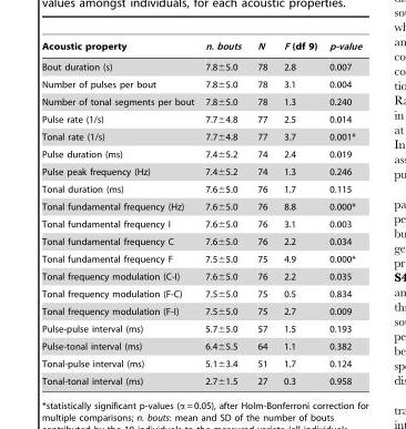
<table><thead><tr><td>Acoustic property</td><td>n. bouts</td><td>N</td><td>F (df 9)</td><td>p-value</td></tr></thead><tbody><tr><td>Bout duration (s)</td><td>7.8±5.0</td><td>78</td><td>2.8</td><td>0.007</td></tr><tr><td>Number of pulses per bout</td><td>7.8±5.0</td><td>78</td><td>3.1</td><td>0.004</td></tr><tr><td>Number of tonal segments per bout</td><td>7.8±5.0</td><td>78</td><td>1.3</td><td>0.240</td></tr><tr><td>Pulse rate (1/s)</td><td>7.7±4.8</td><td>77</td><td>2.5</td><td>0.014</td></tr><tr><td>Tonal rate (1/s)</td><td>7.7±4.8</td><td>77</td><td>3.7</td><td>0.001*</td></tr><tr><td>Pulse duration (ms)</td><td>7.4±5.2</td><td>74</td><td>2.4</td><td>0.019</td></tr><tr><td>Pulse peak frequency (Hz)</td><td>7.4±5.2</td><td>74</td><td>1.3</td><td>0.246</td></tr><tr><td>Tonal duration (ms)</td><td>7.6±5.0</td><td>76</td><td>1.7</td><td>0.115</td></tr><tr><td>Tonal fundamental frequency (Hz)</td><td>7.6±5.0</td><td>76</td><td>8.8</td><td>0.000*</td></tr><tr><td>Tonal fundamental frequency I</td><td>7.6±5.0</td><td>76</td><td>3.1</td><td>0.003</td></tr><tr><td>Tonal fundamental frequency C</td><td>7.6±5.0</td><td>76</td><td>2.2</td><td>0.034</td></tr><tr><td>Tonal fundamental frequency F</td><td>7.5±5.0</td><td>75</td><td>4.9</td><td>0.000*</td></tr><tr><td>Tonal frequency modulation (C-I)</td><td>7.6±5.0</td><td>76</td><td>2.2</td><td>0.035</td></tr><tr><td>Tonal frequency modulation (F-C)</td><td>7.5±5.0</td><td>75</td><td>0.5</td><td>0.834</td></tr><tr><td>Tonal frequency modulation (F-I)</td><td>7.5±5.0</td><td>75</td><td>2.7</td><td>0.009</td></tr><tr><td>Pulse-pulse interval (ms)</td><td>5.7±5.0</td><td>57</td><td>1.5</td><td>0.193</td></tr><tr><td>Pulse-tonal interval (ms)</td><td>6.4±5.5</td><td>64</td><td>1.1</td><td>0.382</td></tr><tr><td>Tonal-pulse interval (ms)</td><td>5.1±3.4</td><td>51</td><td>1.7</td><td>0.124</td></tr><tr><td>Tonal-tonal interval (ms)</td><td>2.7±1.5</td><td>27</td><td>0.3</td><td>0.958</td></tr></tbody></table>